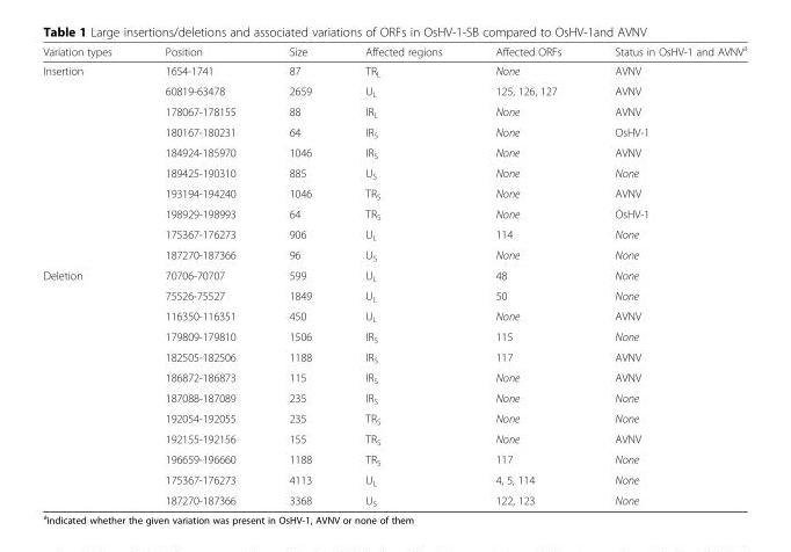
<table><thead><tr><td>Variation types</td><td>Position</td><td>Size</td><td>Affected regions</td><td>Affected ORFs</td><td>Status in OsHV-1 and AVNV<sup>a</sup></td></tr></thead><tbody><tr><td rowspan="10">Insertion</td><td>1654-1741</td><td>87</td><td>TR<sub>L</sub></td><td>None</td><td>AVNV</td></tr><tr><td>60819-63478</td><td>2659</td><td>U<sub>L</sub></td><td>125, 126, 127</td><td>AVNV</td></tr><tr><td>178067-178155</td><td>88</td><td>IR<sub>L</sub></td><td>None</td><td>AVNV</td></tr><tr><td>180167-180231</td><td>64</td><td>IR<sub>S</sub></td><td>None</td><td>OsHV-1</td></tr><tr><td>184924-185970</td><td>1046</td><td>IR<sub>S</sub></td><td>None</td><td>AVNV</td></tr><tr><td>189425-190310</td><td>885</td><td>U<sub>S</sub></td><td>None</td><td>None</td></tr><tr><td>193194-194240</td><td>1046</td><td>TR<sub>S</sub></td><td>None</td><td>AVNV</td></tr><tr><td>198929-198993</td><td>64</td><td>TR<sub>S</sub></td><td>None</td><td>OsHV-1</td></tr><tr><td>175367-176273</td><td>906</td><td>U<sub>L</sub></td><td>114</td><td>None</td></tr><tr><td>187270-187366</td><td>96</td><td>U<sub>S</sub></td><td>None</td><td>None</td></tr><tr><td rowspan="12">Deletion</td><td>70706-70707</td><td>599</td><td>U<sub>L</sub></td><td>48</td><td>None</td></tr><tr><td>75526-75527</td><td>1849</td><td>U<sub>L</sub></td><td>50</td><td>None</td></tr><tr><td>116350-116351</td><td>450</td><td>U<sub>L</sub></td><td>None</td><td>AVNV</td></tr><tr><td>179809-179810</td><td>1506</td><td>IR<sub>S</sub></td><td>115</td><td>None</td></tr><tr><td>182505-182506</td><td>1188</td><td>IR<sub>S</sub></td><td>117</td><td>AVNV</td></tr><tr><td>186872-186873</td><td>115</td><td>IR<sub>S</sub></td><td>None</td><td>AVNV</td></tr><tr><td>187088-187089</td><td>235</td><td>IR<sub>S</sub></td><td>None</td><td>None</td></tr><tr><td>192054-192055</td><td>235</td><td>TR<sub>S</sub></td><td>None</td><td>None</td></tr><tr><td>192155-192156</td><td>155</td><td>TR<sub>S</sub></td><td>None</td><td>AVNV</td></tr><tr><td>196659-196660</td><td>1188</td><td>TR<sub>S</sub></td><td>117</td><td>None</td></tr><tr><td>175367-176273</td><td>4113</td><td>U<sub>L</sub></td><td>4, 5, 114</td><td>None</td></tr><tr><td>187270-187366</td><td>3368</td><td>U<sub>S</sub></td><td>122, 123</td><td>None</td></tr></tbody></table>